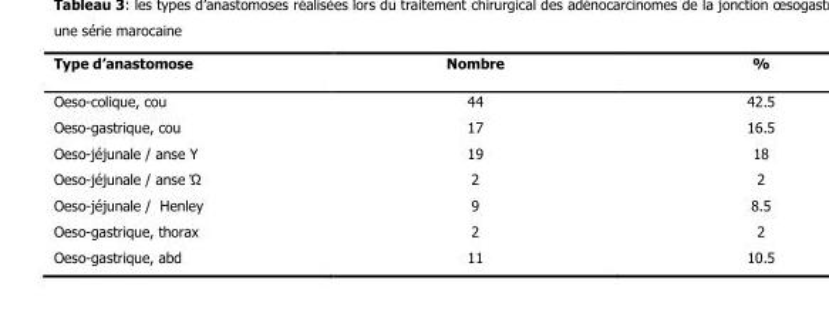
<table><thead><tr><td>Type d’anastomose</td><td>Nombre</td><td>%</td></tr></thead><tbody><tr><td>Oeso-colique, cou</td><td>44</td><td>42.5</td></tr><tr><td>Oeso-gastrique, cou</td><td>17</td><td>16.5</td></tr><tr><td>Oeso-jéjunale / anse Y</td><td>19</td><td>18</td></tr><tr><td>Oeso-jéjunale / anse Ώ</td><td>2</td><td>2</td></tr><tr><td>Oeso-jéjunale / Henley</td><td>9</td><td>8.5</td></tr><tr><td>Oeso-gastrique, thorax</td><td>2</td><td>2</td></tr><tr><td>Oeso-gastrique, abd</td><td>11</td><td>10.5</td></tr></tbody></table>